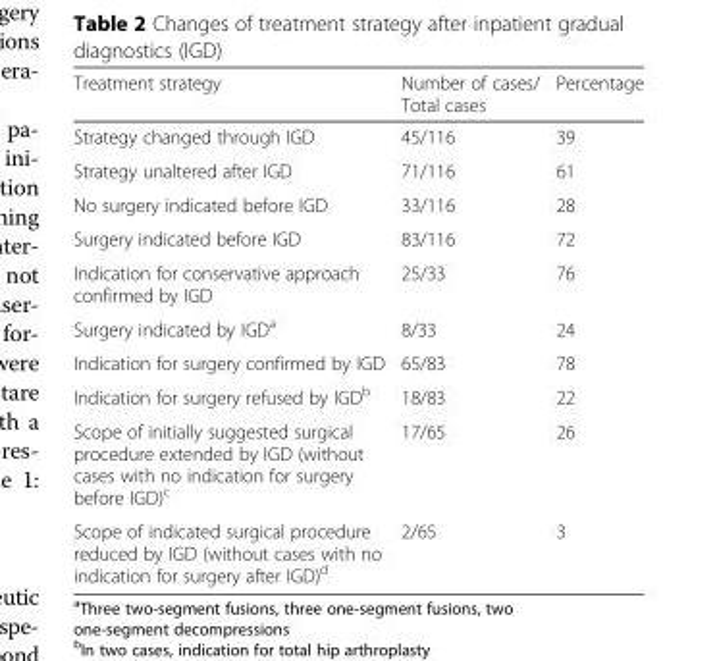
<table><thead><tr><td>Treatment strategy</td><td>Number of cases/ Total cases</td><td>Percentage</td></tr></thead><tbody><tr><td>Strategy changed through IGD</td><td>45/116</td><td>39</td></tr><tr><td>Strategy unaltered after IGD</td><td>71/116</td><td>61</td></tr><tr><td>No surgery indicated before IGD</td><td>33/116</td><td>28</td></tr><tr><td>Surgery indicated before IGD</td><td>83/116</td><td>72</td></tr><tr><td>Indication for conservative approach confirmed by IGD</td><td>25/33</td><td>76</td></tr><tr><td>Surgery indicated by IGD<sup>a</sup></td><td>8/33</td><td>24</td></tr><tr><td>Indication for surgery confirmed by IGD</td><td>65/83</td><td>78</td></tr><tr><td>Indication for surgery refused by IGD<sup>b</sup></td><td>18/83</td><td>22</td></tr><tr><td>Scope of initially suggested surgical procedure extended by IGD (without cases with no indication for surgery before IGD)<sup>c</sup></td><td>17/65</td><td>26</td></tr><tr><td>Scope of indicated surgical procedure reduced by IGD (without cases with no indication for surgery after IGD)<sup>d</sup></td><td>2/65</td><td>3</td></tr></tbody></table>